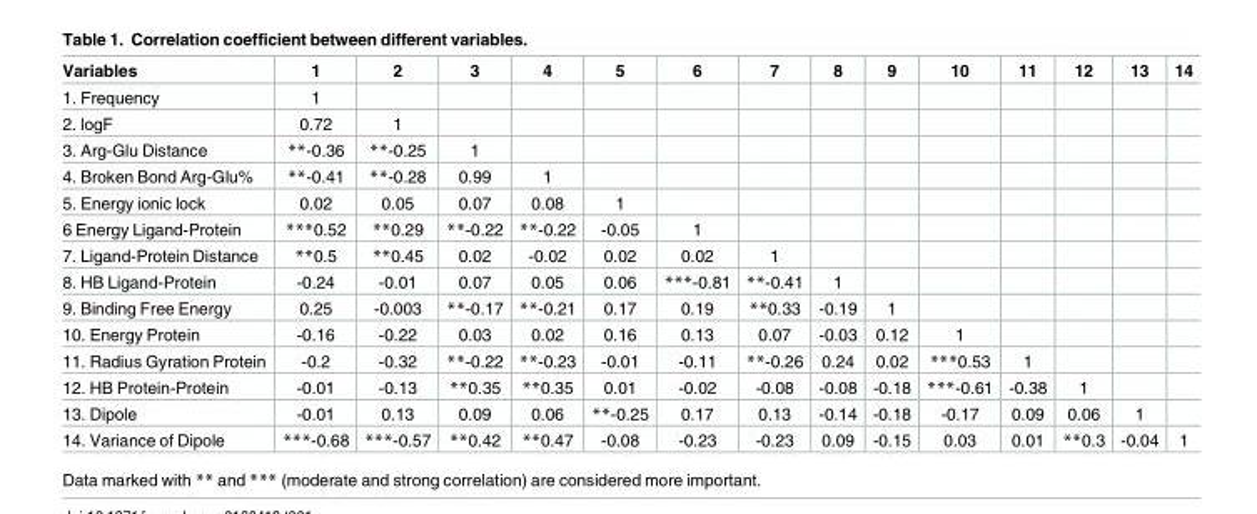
<table><thead><tr><td>Variables</td><td>1</td><td>2</td><td>3</td><td>4</td><td>5</td><td>6</td><td>7</td><td>8</td><td>9</td><td>10</td><td>11</td><td>12</td><td>13</td><td>14</td></tr></thead><tbody><tr><td>1. Frequency</td><td>1</td><td></td><td></td><td></td><td></td><td></td><td></td><td></td><td></td><td></td><td></td><td></td><td></td><td></td></tr><tr><td>2. logF</td><td>0.72</td><td>1</td><td></td><td></td><td></td><td></td><td></td><td></td><td></td><td></td><td></td><td></td><td></td><td></td></tr><tr><td>3. Arg-Glu Distance</td><td>**-0.36</td><td>**-0.25</td><td>1</td><td></td><td></td><td></td><td></td><td></td><td></td><td></td><td></td><td></td><td></td><td></td></tr><tr><td>4. Broken Bond Arg-Glu%</td><td>**-0.41</td><td>**-0.28</td><td>0.99</td><td>1</td><td></td><td></td><td></td><td></td><td></td><td></td><td></td><td></td><td></td><td></td></tr><tr><td>5. Energy ionic lock</td><td>0.02</td><td>0.05</td><td>0.07</td><td>0.08</td><td>1</td><td></td><td></td><td></td><td></td><td></td><td></td><td></td><td></td><td></td></tr><tr><td>6 Energy Ligand-Protein</td><td>***0.52</td><td>**0.29</td><td>**-0.22</td><td>**-0.22</td><td>-0.05</td><td>1</td><td></td><td></td><td></td><td></td><td></td><td></td><td></td><td></td></tr><tr><td>7. Ligand-Protein Distance</td><td>**0.5</td><td>**0.45</td><td>0.02</td><td>-0.02</td><td>0.02</td><td>0.02</td><td>1</td><td></td><td></td><td></td><td></td><td></td><td></td><td></td></tr><tr><td>8. HB Ligand-Protein</td><td>-0.24</td><td>-0.01</td><td>0.07</td><td>0.05</td><td>0.06</td><td>***-0.81</td><td>**-0.41</td><td>1</td><td></td><td></td><td></td><td></td><td></td><td></td></tr><tr><td>9. Binding Free Energy</td><td>0.25</td><td>-0.003</td><td>**-0.17</td><td>**-0.21</td><td>0.17</td><td>0.19</td><td>**0.33</td><td>-0.19</td><td>1</td><td></td><td></td><td></td><td></td><td></td></tr><tr><td>10. Energy Protein</td><td>-0.16</td><td>-0.22</td><td>0.03</td><td>0.02</td><td>0.16</td><td>0.13</td><td>0.07</td><td>-0.03</td><td>0.12</td><td>1</td><td></td><td></td><td></td><td></td></tr><tr><td>11. Radius Gyration Protein</td><td>-0.2</td><td>-0.32</td><td>**-0.22</td><td>**-0.23</td><td>-0.01</td><td>-0.11</td><td>**-0.26</td><td>0.24</td><td>0.02</td><td>***0.53</td><td>1</td><td></td><td></td><td></td></tr><tr><td>12. HB Protein-Protein</td><td>-0.01</td><td>-0.13</td><td>**0.35</td><td>**0.35</td><td>0.01</td><td>-0.02</td><td>-0.08</td><td>-0.08</td><td>-0.18</td><td>***-0.61</td><td>-0.38</td><td>1</td><td></td><td></td></tr><tr><td>13. Dipole</td><td>-0.01</td><td>0.13</td><td>0.09</td><td>0.06</td><td>**-0.25</td><td>0.17</td><td>0.13</td><td>-0.14</td><td>-0.18</td><td>-0.17</td><td>0.09</td><td>0.06</td><td>1</td><td></td></tr><tr><td>14. Variance of Dipole</td><td>***-0.68</td><td>***-0.57</td><td>**0.42</td><td>**0.47</td><td>-0.08</td><td>-0.23</td><td>-0.23</td><td>0.09</td><td>-0.15</td><td>0.03</td><td>0.01</td><td>**0.3</td><td>-0.04</td><td>1</td></tr></tbody></table>